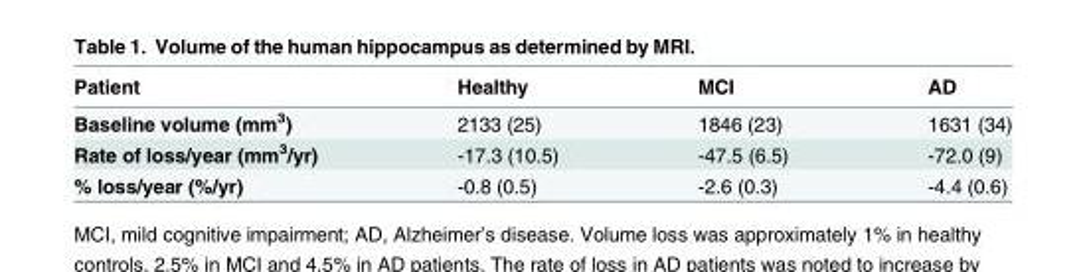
<table><thead><tr><td>Patient</td><td>Healthy</td><td>MCI</td><td>AD</td></tr></thead><tbody><tr><td>Baseline volume (mm<sup>3</sup>)</td><td>2133 (25)</td><td>1846 (23)</td><td>1631 (34)</td></tr><tr><td>Rate of loss/year (mm<sup>3</sup>/yr)</td><td>-17.3 (10.5)</td><td>-47.5 (6.5)</td><td>-72.0 (9)</td></tr><tr><td>% loss/year (%/yr)</td><td>-0.8 (0.5)</td><td>-2.6 (0.3)</td><td>-4.4 (0.6)</td></tr></tbody></table>